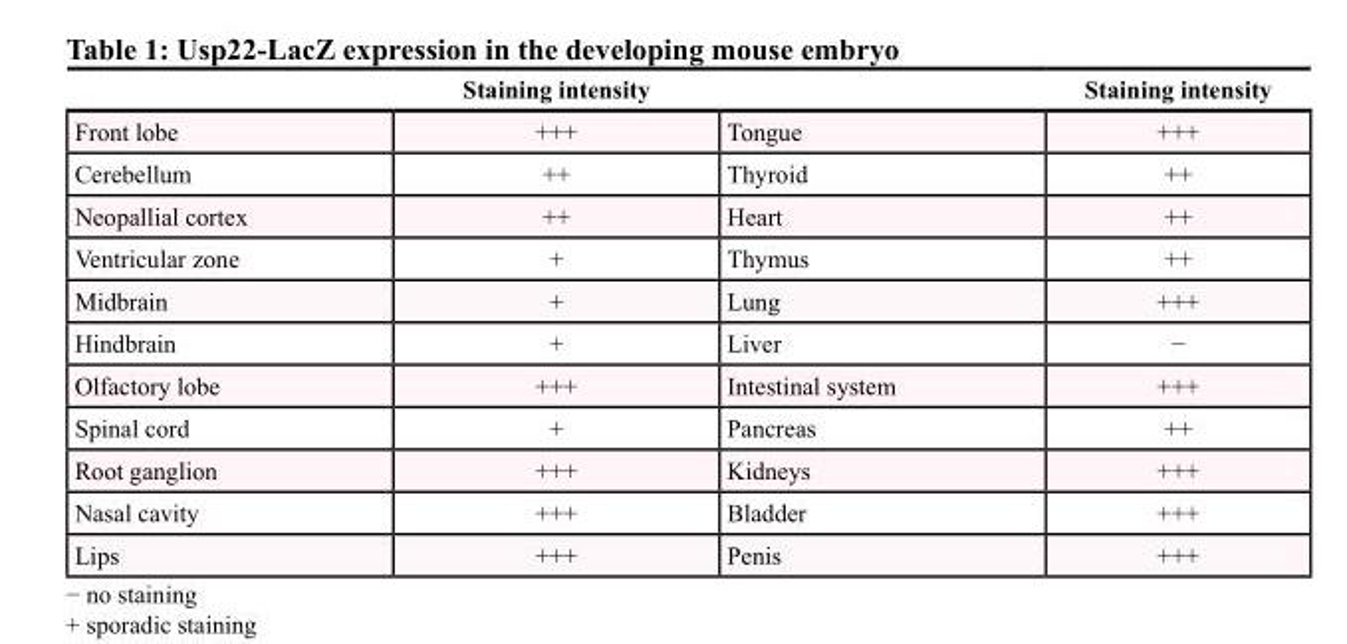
<table><thead><tr><td></td><td>Staining intensity</td><td></td><td>Staining intensity</td></tr></thead><tbody><tr><td>Front lobe</td><td>+++</td><td>Tongue</td><td>+++</td></tr><tr><td>Cerebellum</td><td>++</td><td>Thyroid</td><td>++</td></tr><tr><td>Neopallial cortex</td><td>++</td><td>Heart</td><td>++</td></tr><tr><td>Ventricular zone</td><td>+</td><td>Thymus</td><td>++</td></tr><tr><td>Midbrain</td><td>+</td><td>Lung</td><td>+++</td></tr><tr><td>Hindbrain</td><td>+</td><td>Liver</td><td>−</td></tr><tr><td>Olfactory lobe</td><td>+++</td><td>Intestinal system</td><td>+++</td></tr><tr><td>Spinal cord</td><td>+</td><td>Pancreas</td><td>++</td></tr><tr><td>Root ganglion</td><td>+++</td><td>Kidneys</td><td>+++</td></tr><tr><td>Nasal cavity</td><td>+++</td><td>Bladder</td><td>+++</td></tr><tr><td>Lips</td><td>+++</td><td>Penis</td><td>+++</td></tr></tbody></table>